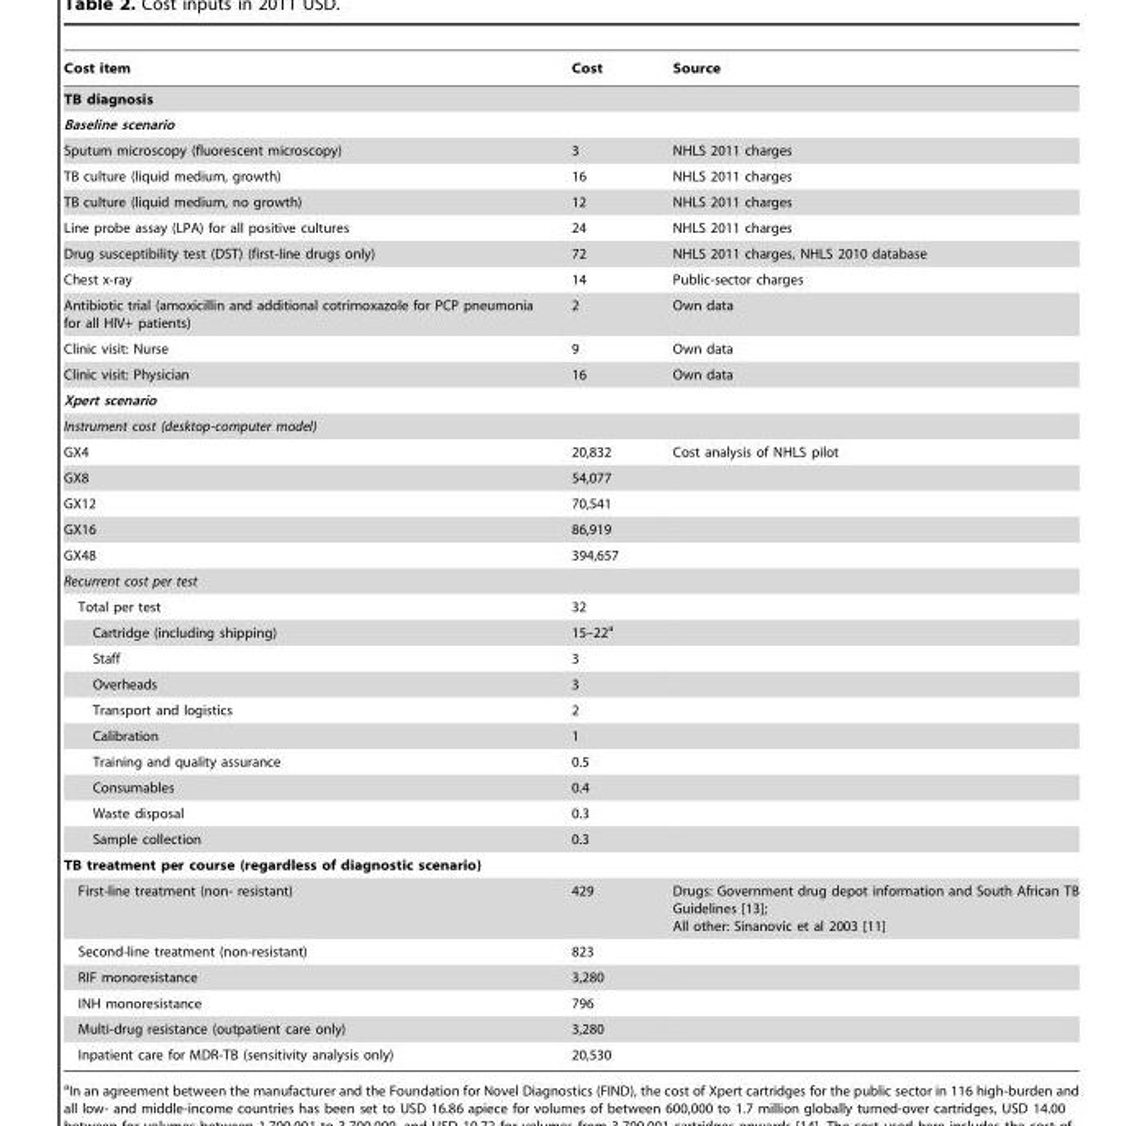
<table><thead><tr><td>Cost item</td><td>Cost</td><td>Source</td></tr></thead><tbody><tr><td colspan="3">TB diagnosis</td></tr><tr><td colspan="3">Baseline scenario</td></tr><tr><td>Sputum microscopy (fluorescent microscopy)</td><td>3</td><td>NHLS 2011 charges</td></tr><tr><td>TB culture (liquid medium, growth)</td><td>16</td><td>NHLS 2011 charges</td></tr><tr><td>TB culture (liquid medium, no growth)</td><td>12</td><td>NHLS 2011 charges</td></tr><tr><td>Line probe assay (LPA) for all positive cultures</td><td>24</td><td>NHLS 2011 charges</td></tr><tr><td>Drug susceptibility test (DST) (first-line drugs only)</td><td>72</td><td>NHLS 2011 charges, NHLS 2010 database</td></tr><tr><td>Chest x-ray</td><td>14</td><td>Public-sector charges</td></tr><tr><td>Antibiotic trial (amoxicillin and additional cotrimoxazole for PCP pneumonia for all HIV+ patients)</td><td>2</td><td>Own data</td></tr><tr><td>Clinic visit: Nurse</td><td>9</td><td>Own data</td></tr><tr><td>Clinic visit: Physician</td><td>16</td><td>Own data</td></tr><tr><td colspan="3">Xpert scenario</td></tr><tr><td colspan="3">Instrument cost (desktop-computer model)</td></tr><tr><td>GX4</td><td>20,832</td><td>Cost analysis of NHLS pilot</td></tr><tr><td>GX8</td><td>54,077</td><td></td></tr><tr><td>GX12</td><td>70,541</td><td></td></tr><tr><td>GX16</td><td>86,919</td><td></td></tr><tr><td>GX48</td><td>394,657</td><td></td></tr><tr><td colspan="3">Recurrent cost per test</td></tr><tr><td>Total per test</td><td>32</td><td></td></tr><tr><td>Cartridge (including shipping)</td><td>15–22<sup>a</sup></td><td></td></tr><tr><td>Staff</td><td>3</td><td></td></tr><tr><td>Overheads</td><td>3</td><td></td></tr><tr><td>Transport and logistics</td><td>2</td><td></td></tr><tr><td>Calibration</td><td>1</td><td></td></tr><tr><td>Training and quality assurance</td><td>0.5</td><td></td></tr><tr><td>Consumables</td><td>0.4</td><td></td></tr><tr><td>Waste disposal</td><td>0.3</td><td></td></tr><tr><td>Sample collection</td><td>0.3</td><td></td></tr><tr><td colspan="3">TB treatment per course (regardless of diagnostic scenario)</td></tr><tr><td>First-line treatment (non- resistant)</td><td>429</td><td>Drugs: Government drug depot information and South African TB Guidelines [13]; All other: Sinanovic et al 2003 [11]</td></tr><tr><td>Second-line treatment (non-resistant)</td><td>823</td><td></td></tr><tr><td>RIF monoresistance</td><td>3,280</td><td></td></tr><tr><td>INH monoresistance</td><td>796</td><td></td></tr><tr><td>Multi-drug resistance (outpatient care only)</td><td>3,280</td><td></td></tr><tr><td>Inpatient care for MDR-TB (sensitivity analysis only)</td><td>20,530</td><td></td></tr></tbody></table>